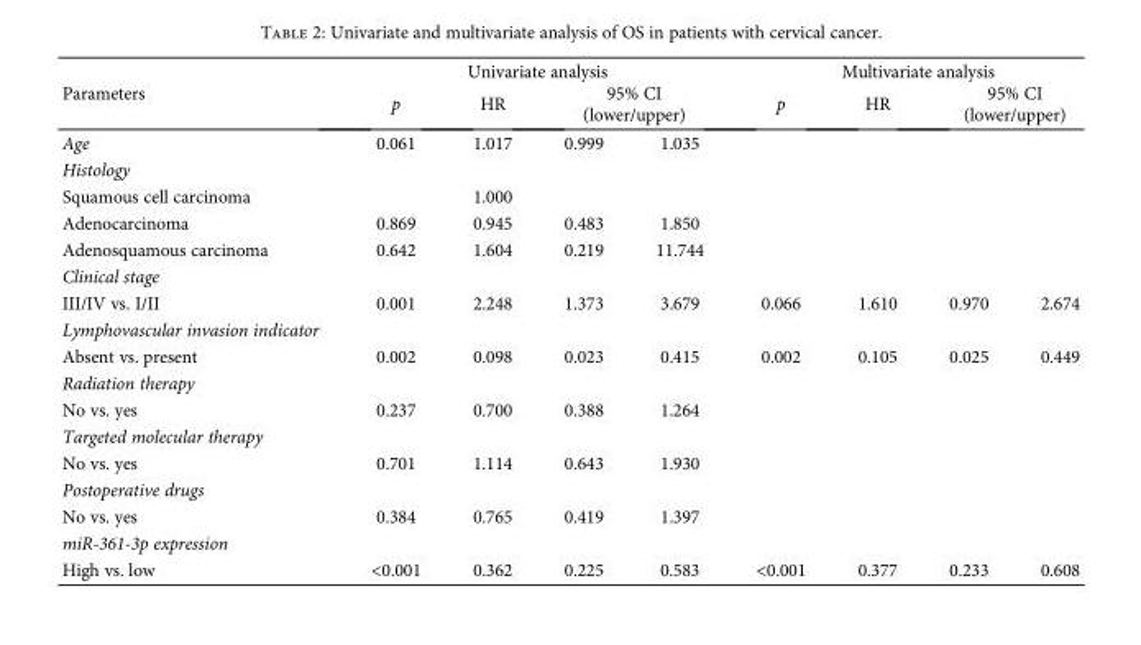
<table><thead><tr><td rowspan="3">Parameters Age</td><td colspan="4">Univariate analysis</td><td colspan="4">Multivariate analysis</td></tr><tr><td rowspan="2">p 0.061</td><td rowspan="2">HR 1.017</td><td colspan="2">95% CI (lower/upper)</td><td rowspan="2">p</td><td rowspan="2">HR</td><td colspan="2">95% CI (lower/upper)</td></tr><tr><td>0.999</td><td>1.035</td><td></td><td></td></tr></thead><tbody><tr><td colspan="9">Histology</td></tr><tr><td>Squamous cell carcinoma</td><td></td><td>1.000</td><td></td><td></td><td></td><td></td><td></td><td></td></tr><tr><td>Adenocarcinoma</td><td>0.869</td><td>0.945</td><td>0.483</td><td>1.850</td><td></td><td></td><td></td><td></td></tr><tr><td>Adenosquamous carcinoma</td><td>0.642</td><td>1.604</td><td>0.219</td><td>11.744</td><td></td><td></td><td></td><td></td></tr><tr><td colspan="9">Clinical stage</td></tr><tr><td>III/IV vs. I/II</td><td>0.001</td><td>2.248</td><td>1.373</td><td>3.679</td><td>0.066</td><td>1.610</td><td>0.970</td><td>2.674</td></tr><tr><td colspan="9">Lymphovascular invasion indicator</td></tr><tr><td>Absent vs. present</td><td>0.002</td><td>0.098</td><td>0.023</td><td>0.415</td><td>0.002</td><td>0.105</td><td>0.025</td><td>0.449</td></tr><tr><td colspan="9">Radiation therapy</td></tr><tr><td>No vs. yes</td><td>0.237</td><td>0.700</td><td>0.388</td><td>1.264</td><td></td><td></td><td></td><td></td></tr><tr><td colspan="9">Targeted molecular therapy</td></tr><tr><td>No vs. yes</td><td>0.701</td><td>1.114</td><td>0.643</td><td>1.930</td><td></td><td></td><td></td><td></td></tr><tr><td colspan="9">Postoperative drugs</td></tr><tr><td>No vs. yes</td><td>0.384</td><td>0.765</td><td>0.419</td><td>1.397</td><td></td><td></td><td></td><td></td></tr><tr><td colspan="9">miR-361-3p expression</td></tr><tr><td>High vs. low</td><td>&lt;0.001</td><td>0.362</td><td>0.225</td><td>0.583</td><td>&lt;0.001</td><td>0.377</td><td>0.233</td><td>0.608</td></tr></tbody></table>